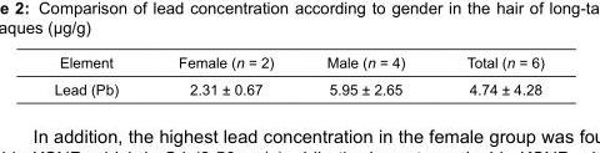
<table><thead><tr><td>Element</td><td>Female (n = 2)</td><td>Male (n = 4)</td><td>Total (n = 6)</td></tr></thead><tbody><tr><td>Lead (Pb)</td><td>2.31 ± 0.67</td><td>5.95 ± 2.65</td><td>4.74 ± 4.28</td></tr></tbody></table>